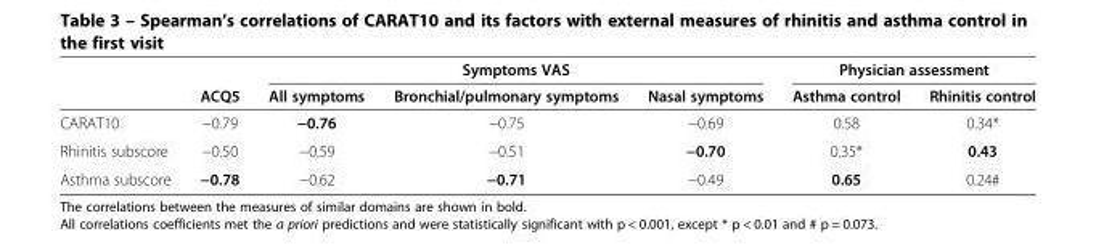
<table><thead><tr><td rowspan="2"></td><td rowspan="2">ACQ5</td><td colspan="3">Symptoms VAS</td><td colspan="2">Physician assessment</td></tr><tr><td>All symptoms</td><td>Bronchial/pulmonary symptoms</td><td>Nasal symptoms</td><td>Asthma control</td><td>Rhinitis control</td></tr></thead><tbody><tr><td>CARAT10</td><td>−0.79</td><td>−0.76</td><td>−0.75</td><td>−0.69</td><td>0.58</td><td>0.34*</td></tr><tr><td>Rhinitis subscore</td><td>−0.50</td><td>−0.59</td><td>−0.51</td><td>−0.70</td><td>0.35*</td><td>0.43</td></tr><tr><td>Asthma subscore</td><td>−0.78</td><td>−0.62</td><td>−0.71</td><td>−0.49</td><td>0.65</td><td>0.24#</td></tr></tbody></table>